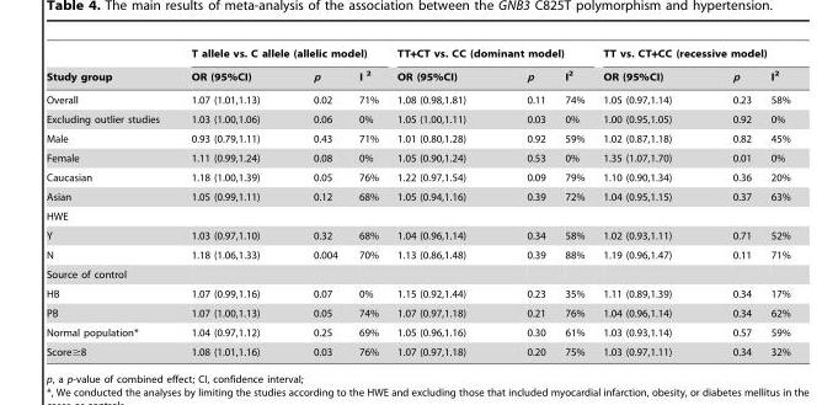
<table><thead><tr><td rowspan="2">Study group</td><td colspan="3">T allele vs. C allele (allelic model)</td><td colspan="3">TT+CT vs. CC (dominant model)</td><td colspan="3">TT vs. CT+CC (recessive model)</td></tr><tr><td>OR (95%CI)</td><td>p</td><td>I <sup>2</sup></td><td>OR (95%CI)</td><td>p</td><td>I<sup>2</sup></td><td>OR (95%CI)</td><td>p</td><td>I<sup>2</sup></td></tr></thead><tbody><tr><td>Overall</td><td>1.07 (1.01,1.13)</td><td>0.02</td><td>71%</td><td>1.08 (0.98,1.81)</td><td>0.11</td><td>74%</td><td>1.05 (0.97,1.14)</td><td>0.23</td><td>58%</td></tr><tr><td>Excluding outlier studies</td><td>1.03 (1.00,1.06)</td><td>0.06</td><td>0%</td><td>1.05 (1.00,1.11)</td><td>0.03</td><td>0%</td><td>1.00 (0.95,1.05)</td><td>0.92</td><td>0%</td></tr><tr><td>Male</td><td>0.93 (0.79,1.11)</td><td>0.43</td><td>71%</td><td>1.01 (0.80,1.28)</td><td>0.92</td><td>59%</td><td>1.02 (0.87,1.18)</td><td>0.82</td><td>45%</td></tr><tr><td>Female</td><td>1.11 (0.99,1.24)</td><td>0.08</td><td>0%</td><td>1.05 (0.90,1.24)</td><td>0.53</td><td>0%</td><td>1.35 (1.07,1.70)</td><td>0.01</td><td>0%</td></tr><tr><td>Caucasian</td><td>1.18 (1.00,1.39)</td><td>0.05</td><td>76%</td><td>1.22 (0.97,1.54)</td><td>0.09</td><td>79%</td><td>1.10 (0.90,1.34)</td><td>0.36</td><td>20%</td></tr><tr><td>Asian</td><td>1.05 (0.99,1.11)</td><td>0.12</td><td>68%</td><td>1.05 (0.94,1.16)</td><td>0.39</td><td>72%</td><td>1.04 (0.95,1.15)</td><td>0.37</td><td>63%</td></tr><tr><td colspan="10">HWE</td></tr><tr><td>Y</td><td>1.03 (0.97,1.10)</td><td>0.32</td><td>68%</td><td>1.04 (0.96,1.14)</td><td>0.34</td><td>58%</td><td>1.02 (0.93,1.11)</td><td>0.71</td><td>52%</td></tr><tr><td>N</td><td>1.18 (1.06,1.33)</td><td>0.004</td><td>70%</td><td>1.13 (0.86,1.48)</td><td>0.39</td><td>88%</td><td>1.19 (0.96,1.47)</td><td>0.11</td><td>71%</td></tr><tr><td colspan="10">Source of control</td></tr><tr><td>HB</td><td>1.07 (0.99,1.16)</td><td>0.07</td><td>0%</td><td>1.15 (0.92,1.44)</td><td>0.23</td><td>35%</td><td>1.11 (0.89,1.39)</td><td>0.34</td><td>17%</td></tr><tr><td>PB</td><td>1.07 (1.00,1.13)</td><td>0.05</td><td>74%</td><td>1.07 (0.97,1.18)</td><td>0.21</td><td>76%</td><td>1.04 (0.96,1.14)</td><td>0.34</td><td>62%</td></tr><tr><td>Normal population*</td><td>1.04 (0.97,1.12)</td><td>0.25</td><td>69%</td><td>1.05 (0.96,1.16)</td><td>0.30</td><td>61%</td><td>1.03 (0.93,1.14)</td><td>0.57</td><td>59%</td></tr><tr><td>Score≥8</td><td>1.08 (1.01,1.16)</td><td>0.03</td><td>76%</td><td>1.07 (0.97,1.18)</td><td>0.20</td><td>75%</td><td>1.03 (0.97,1.11)</td><td>0.34</td><td>32%</td></tr></tbody></table>